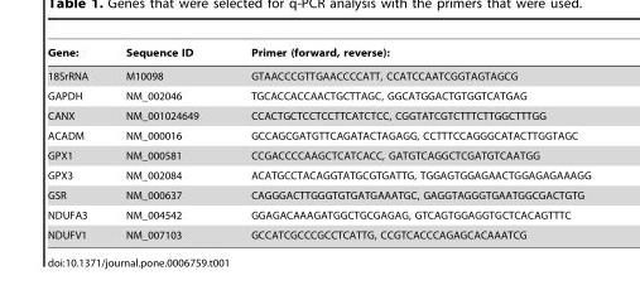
<table><thead><tr><td>Gene:</td><td>Sequence ID</td><td>Primer (forward, reverse):</td></tr></thead><tbody><tr><td>18SrRNA</td><td>M10098</td><td>GTAACCCGTTGAACCCCATT, CCATCCAATCGGTAGTAGCG</td></tr><tr><td>GAPDH</td><td>NM_002046</td><td>TGCACCACCAACTGCTTAGC, GGCATGGACTGTGGTCATGAG</td></tr><tr><td>CANX</td><td>NM_001024649</td><td>CCACTGCTCCTCCTTCATCTCC, CGGTATCGTCTTTCTTGGCTTTGG</td></tr><tr><td>ACADM</td><td>NM_000016</td><td>GCCAGCGATGTTCAGATACTAGAGG, CCTTTCCAGGGCATACTTGGTAGC</td></tr><tr><td>GPX1</td><td>NM_000581</td><td>CCGACCCCAAGCTCATCACC, GATGTCAGGCTCGATGTCAATGG</td></tr><tr><td>GPX3</td><td>NM_002084</td><td>ACATGCCTACAGGTATGCGTGATTG, TGGAGTGGAGAACTGGAGAGAAAGG</td></tr><tr><td>GSR</td><td>NM_000637</td><td>CAGGGACTTGGGTGTGATGAAATGC, GAGGTAGGGTGAATGGCGACTGTG</td></tr><tr><td>NDUFA3</td><td>NM_004542</td><td>GGAGACAAAGATGGCTGCGAGAG, GTCAGTGGAGGTGCTCACAGTTTC</td></tr><tr><td>NDUFV1</td><td>NM_007103</td><td>GCCATCGCCCGCCTCATTG, CCGTCACCCAGAGCACAAATCG</td></tr></tbody></table>